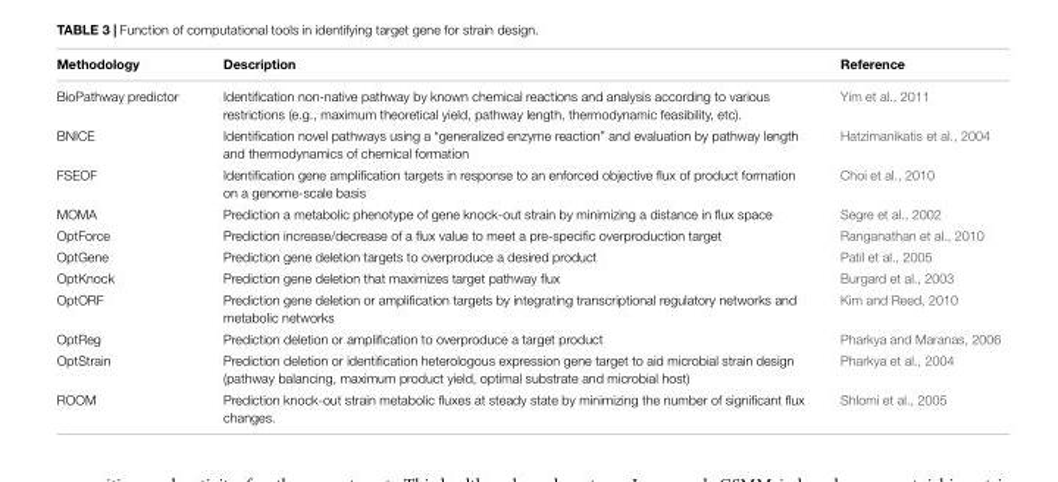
<table><thead><tr><td>Methodology</td><td>Description</td><td>Reference</td></tr></thead><tbody><tr><td>BioPathway predictor</td><td>Identification non-native pathway by known chemical reactions and analysis according to various restrictions (e.g., maximum theoretical yield, pathway length, thermodynamic feasibility, etc).</td><td>Yim et al., 2011</td></tr><tr><td>BNICE</td><td>Identification novel pathways using a “generalized enzyme reaction” and evaluation by pathway length and thermodynamics of chemical formation</td><td>Hatzimanikatis et al., 2004</td></tr><tr><td>FSEOF</td><td>Identification gene amplification targets in response to an enforced objective flux of product formation on a genome-scale basis</td><td>Choi et al., 2010</td></tr><tr><td>MOMA</td><td>Prediction a metabolic phenotype of gene knock-out strain by minimizing a distance in flux space</td><td>Segre et al., 2002</td></tr><tr><td>OptForce</td><td>Prediction increase/decrease of a flux value to meet a pre-specific overproduction target</td><td>Ranganathan et al., 2010</td></tr><tr><td>OptGene</td><td>Prediction gene deletion targets to overproduce a desired product</td><td>Patil et al., 2005</td></tr><tr><td>OptKnock</td><td>Prediction gene deletion that maximizes target pathway flux</td><td>Burgard et al., 2003</td></tr><tr><td>OptORF</td><td>Prediction gene deletion or amplification targets by integrating transcriptional regulatory networks and metabolic networks</td><td>Kim and Reed, 2010</td></tr><tr><td>OptReg</td><td>Prediction deletion or amplification to overproduce a target product</td><td>Pharkya and Maranas, 2006</td></tr><tr><td>OptStrain</td><td>Prediction deletion or identification heterologous expression gene target to aid microbial strain design (pathway balancing, maximum product yield, optimal substrate and microbial host)</td><td>Pharkya et al., 2004</td></tr><tr><td>ROOM</td><td>Prediction knock-out strain metabolic fluxes at steady state by minimizing the number of significant flux changes.</td><td>Shlomi et al., 2005</td></tr></tbody></table>